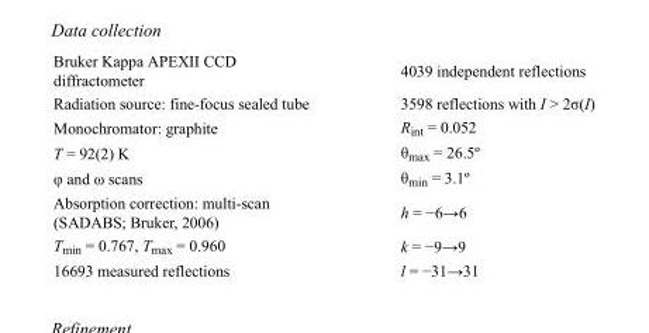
<table><tbody><tr><td>Bruker Kappa APEXII CCD diffractometer</td><td>4039 independent reflections</td></tr><tr><td>Radiation source: fine-focus sealed tube</td><td>3598 reflections with I &gt; 2σ(I)</td></tr><tr><td>Monochromator: graphite</td><td>R<sub>int</sub> = 0.052</td></tr><tr><td>T = 92(2) K</td><td>θ<sub>max</sub> = 26.5º</td></tr><tr><td>φ and ω scans</td><td>θ<sub>min</sub> = 3.1º</td></tr><tr><td>Absorption correction: multi-scan (SADABS; Bruker, 2006)</td><td>h = −6→6</td></tr><tr><td>T<sub>min</sub> = 0.767, T<sub>max</sub> = 0.960</td><td>k = −9→9</td></tr><tr><td>16693 measured reflections</td><td>l = −31→31</td></tr></tbody></table>